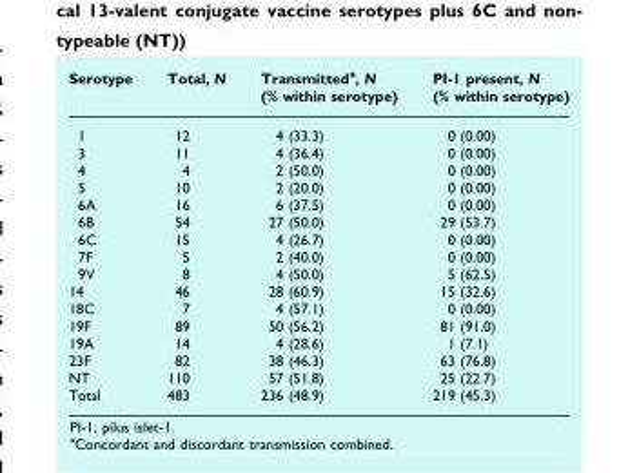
<table><thead><tr><td>Serotype</td><td>Total, N</td><td>Transmitted<sup>a</sup>, N (% within serotype)</td><td>PI-1 present, N (% within serotype)</td></tr></thead><tbody><tr><td>1</td><td>12</td><td>4 (33.3)</td><td>0 (0.00)</td></tr><tr><td>3</td><td>11</td><td>4 (36.4)</td><td>0 (0.00)</td></tr><tr><td>4</td><td>4</td><td>2 (50.0)</td><td>0 (0.00)</td></tr><tr><td>5</td><td>10</td><td>2 (20.0)</td><td>0 (0.00)</td></tr><tr><td>6A</td><td>16</td><td>6 (37.5)</td><td>0 (0.00)</td></tr><tr><td>6B</td><td>54</td><td>27 (50.0)</td><td>29 (53.7)</td></tr><tr><td>6C</td><td>15</td><td>4 (26.7)</td><td>0 (0.00)</td></tr><tr><td>7F</td><td>5</td><td>2 (40.0)</td><td>0 (0.00)</td></tr><tr><td>9V</td><td>8</td><td>4 (50.0)</td><td>5 (62.5)</td></tr><tr><td>14</td><td>46</td><td>28 (60.9)</td><td>15 (32.6)</td></tr><tr><td>18C</td><td>7</td><td>4 (57.1)</td><td>0 (0.00)</td></tr><tr><td>19F</td><td>89</td><td>50 (56.2)</td><td>81 (91.0)</td></tr><tr><td>19A</td><td>14</td><td>4 (28.6)</td><td>1 (7.1)</td></tr><tr><td>23F</td><td>82</td><td>38 (46.3)</td><td>63 (76.8)</td></tr><tr><td>NT</td><td>110</td><td>57 (51.8)</td><td>25 (22.7)</td></tr><tr><td>Total</td><td>483</td><td>236 (48.9)</td><td>219 (45.3)</td></tr></tbody></table>